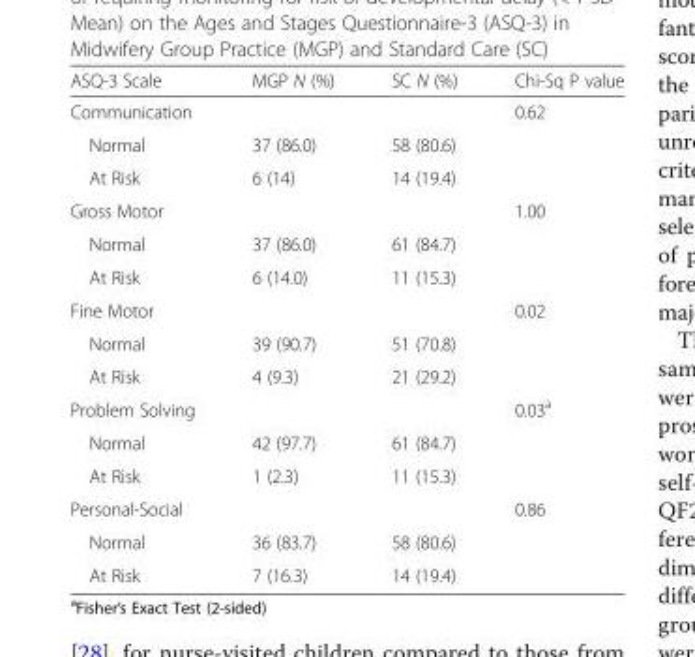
<table><thead><tr><td>ASQ-3 Scale</td><td>MGP N (%)</td><td>SC N (%)</td><td>Chi-Sq P value</td></tr></thead><tbody><tr><td>Communication</td><td></td><td></td><td>0.62</td></tr><tr><td>Normal</td><td>37 (86.0)</td><td>58 (80.6)</td><td></td></tr><tr><td>At Risk</td><td>6 (14)</td><td>14 (19.4)</td><td></td></tr><tr><td>Gross Motor</td><td></td><td></td><td>1.00</td></tr><tr><td>Normal</td><td>37 (86.0)</td><td>61 (84.7)</td><td></td></tr><tr><td>At Risk</td><td>6 (14.0)</td><td>11 (15.3)</td><td></td></tr><tr><td>Fine Motor</td><td></td><td></td><td>0.02</td></tr><tr><td>Normal</td><td>39 (90.7)</td><td>51 (70.8)</td><td></td></tr><tr><td>At Risk</td><td>4 (9.3)</td><td>21 (29.2)</td><td></td></tr><tr><td>Problem Solving</td><td colspan="2"></td><td>0.03<sup>a</sup></td></tr><tr><td>Normal</td><td>42 (97.7)</td><td>61 (84.7)</td><td></td></tr><tr><td>At Risk</td><td>1 (2.3)</td><td>11 (15.3)</td><td></td></tr><tr><td>Personal-Social</td><td></td><td></td><td>0.86</td></tr><tr><td>Normal</td><td>36 (83.7)</td><td>58 (80.6)</td><td></td></tr><tr><td>At Risk</td><td>7 (16.3)</td><td>14 (19.4)</td><td></td></tr></tbody></table>